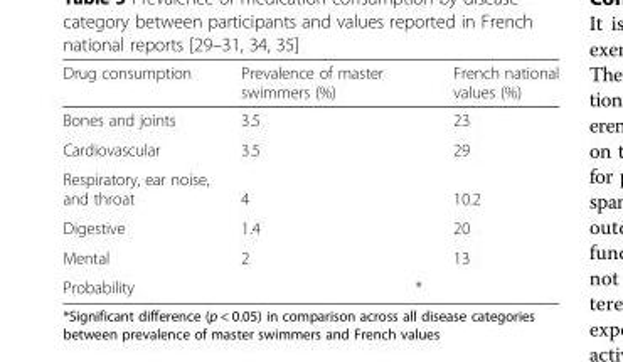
<table><thead><tr><td>Drug consumption</td><td>Prevalence of master swimmers (%)</td><td></td><td>French national values (%)</td></tr></thead><tbody><tr><td>Bones and joints</td><td>3.5</td><td></td><td>23</td></tr><tr><td>Cardiovascular</td><td>3.5</td><td></td><td>29</td></tr><tr><td>Respiratory, ear noise, and throat</td><td>4</td><td></td><td>10.2</td></tr><tr><td>Digestive</td><td>1.4</td><td></td><td>20</td></tr><tr><td>Mental</td><td>2</td><td></td><td>13</td></tr><tr><td>Probability</td><td></td><td>*</td><td></td></tr></tbody></table>